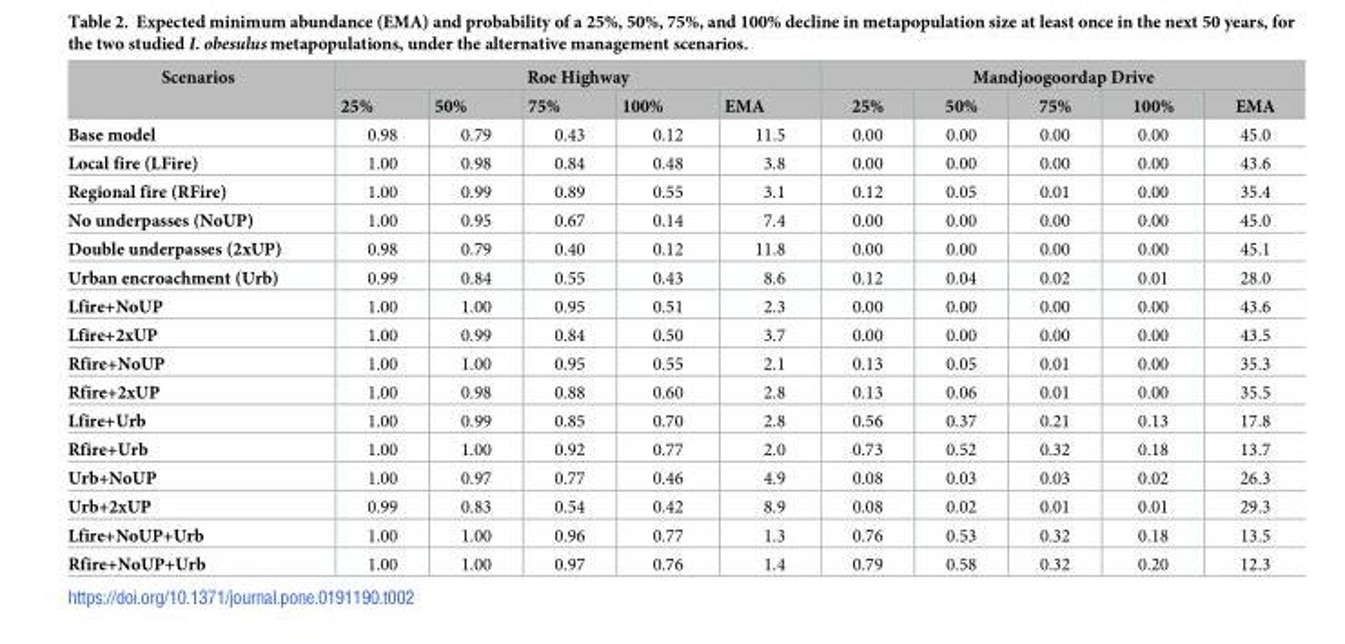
<table><thead><tr><td rowspan="2">Scenarios</td><td colspan="5">Roe Highway</td><td colspan="5">Mandjoogoordap Drive</td></tr><tr><td>25%</td><td>50%</td><td>75%</td><td>100%</td><td>EMA</td><td>25%</td><td>50%</td><td>75%</td><td>100%</td><td>EMA</td></tr></thead><tbody><tr><td>Base model</td><td>0.98</td><td>0.79</td><td>0.43</td><td>0.12</td><td>11.5</td><td>0.00</td><td>0.00</td><td>0.00</td><td>0.00</td><td>45.0</td></tr><tr><td>Local fire (LFire)</td><td>1.00</td><td>0.98</td><td>0.84</td><td>0.48</td><td>3.8</td><td>0.00</td><td>0.00</td><td>0.00</td><td>0.00</td><td>43.6</td></tr><tr><td>Regional fire (RFire)</td><td>1.00</td><td>0.99</td><td>0.89</td><td>0.55</td><td>3.1</td><td>0.12</td><td>0.05</td><td>0.01</td><td>0.00</td><td>35.4</td></tr><tr><td>No underpasses (NoUP)</td><td>1.00</td><td>0.95</td><td>0.67</td><td>0.14</td><td>7.4</td><td>0.00</td><td>0.00</td><td>0.00</td><td>0.00</td><td>45.0</td></tr><tr><td>Double underpasses (2xUP)</td><td>0.98</td><td>0.79</td><td>0.40</td><td>0.12</td><td>11.8</td><td>0.00</td><td>0.00</td><td>0.00</td><td>0.00</td><td>45.1</td></tr><tr><td>Urban encroachment (Urb)</td><td>0.99</td><td>0.84</td><td>0.55</td><td>0.43</td><td>8.6</td><td>0.12</td><td>0.04</td><td>0.02</td><td>0.01</td><td>28.0</td></tr><tr><td>Lfire+NoUP</td><td>1.00</td><td>1.00</td><td>0.95</td><td>0.51</td><td>2.3</td><td>0.00</td><td>0.00</td><td>0.00</td><td>0.00</td><td>43.6</td></tr><tr><td>Lfire+2xUP</td><td>1.00</td><td>0.99</td><td>0.84</td><td>0.50</td><td>3.7</td><td>0.00</td><td>0.00</td><td>0.00</td><td>0.00</td><td>43.5</td></tr><tr><td>Rfire+NoUP</td><td>1.00</td><td>1.00</td><td>0.95</td><td>0.55</td><td>2.1</td><td>0.13</td><td>0.05</td><td>0.01</td><td>0.00</td><td>35.3</td></tr><tr><td>Rfire+2xUP</td><td>1.00</td><td>0.98</td><td>0.88</td><td>0.60</td><td>2.8</td><td>0.13</td><td>0.06</td><td>0.01</td><td>0.00</td><td>35.5</td></tr><tr><td>Lfire+Urb</td><td>1.00</td><td>0.99</td><td>0.85</td><td>0.70</td><td>2.8</td><td>0.56</td><td>0.37</td><td>0.21</td><td>0.13</td><td>17.8</td></tr><tr><td>Rfire+Urb</td><td>1.00</td><td>1.00</td><td>0.92</td><td>0.77</td><td>2.0</td><td>0.73</td><td>0.52</td><td>0.32</td><td>0.18</td><td>13.7</td></tr><tr><td>Urb+NoUP</td><td>1.00</td><td>0.97</td><td>0.77</td><td>0.46</td><td>4.9</td><td>0.08</td><td>0.03</td><td>0.03</td><td>0.02</td><td>26.3</td></tr><tr><td>Urb+2xUP</td><td>0.99</td><td>0.83</td><td>0.54</td><td>0.42</td><td>8.9</td><td>0.08</td><td>0.02</td><td>0.01</td><td>0.01</td><td>29.3</td></tr><tr><td>Lfire+NoUP+Urb</td><td>1.00</td><td>1.00</td><td>0.96</td><td>0.77</td><td>1.3</td><td>0.76</td><td>0.53</td><td>0.32</td><td>0.18</td><td>13.5</td></tr><tr><td>Rfire+NoUP+Urb</td><td>1.00</td><td>1.00</td><td>0.97</td><td>0.76</td><td>1.4</td><td>0.79</td><td>0.58</td><td>0.32</td><td>0.20</td><td>12.3</td></tr></tbody></table>